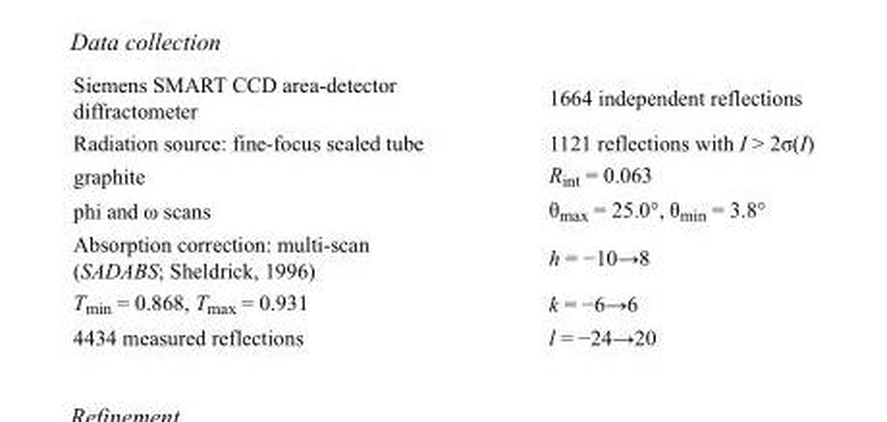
<table><tbody><tr><td>Siemens SMART CCD area-detector diffractometer</td><td>1664 independent reflections</td></tr><tr><td>Radiation source: fine-focus sealed tube</td><td>1121 reflections with I &gt; 2σ(I)</td></tr><tr><td>graphite</td><td>R<sub>int</sub> = 0.063</td></tr><tr><td>phi and ω scans</td><td>θ<sub>max</sub> = 25.0°, θ<sub>min</sub> = 3.8°</td></tr><tr><td>Absorption correction: multi-scan (SADABS; Sheldrick, 1996)</td><td>h = −10→8</td></tr><tr><td>T<sub>min</sub> = 0.868, T<sub>max</sub> = 0.931</td><td>k = −6→6</td></tr><tr><td>4434 measured reflections</td><td>l = −24→20</td></tr></tbody></table>